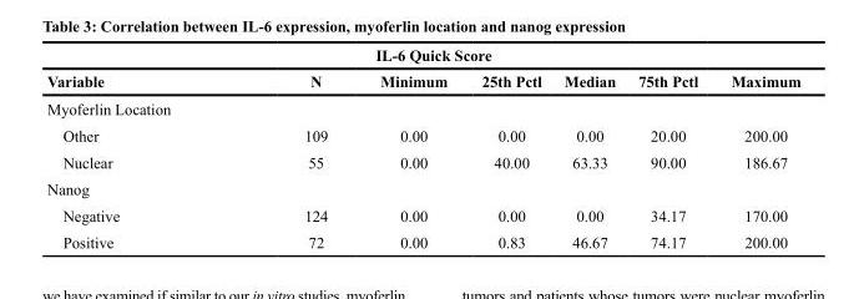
<table><thead><tr><td colspan="7">IL-6 Quick Score</td></tr><tr><td>Variable</td><td>N</td><td>Minimum</td><td>25th Pctl</td><td>Median</td><td>75th Pctl</td><td>Maximum</td></tr></thead><tbody><tr><td colspan="7">Myoferlin Location</td></tr><tr><td>Other</td><td>109</td><td>0.00</td><td>0.00</td><td>0.00</td><td>20.00</td><td>200.00</td></tr><tr><td>Nuclear</td><td>55</td><td>0.00</td><td>40.00</td><td>63.33</td><td>90.00</td><td>186.67</td></tr><tr><td colspan="7">Nanog</td></tr><tr><td>Negative</td><td>124</td><td>0.00</td><td>0.00</td><td>0.00</td><td>34.17</td><td>170.00</td></tr><tr><td>Positive</td><td>72</td><td>0.00</td><td>0.83</td><td>46.67</td><td>74.17</td><td>200.00</td></tr></tbody></table>